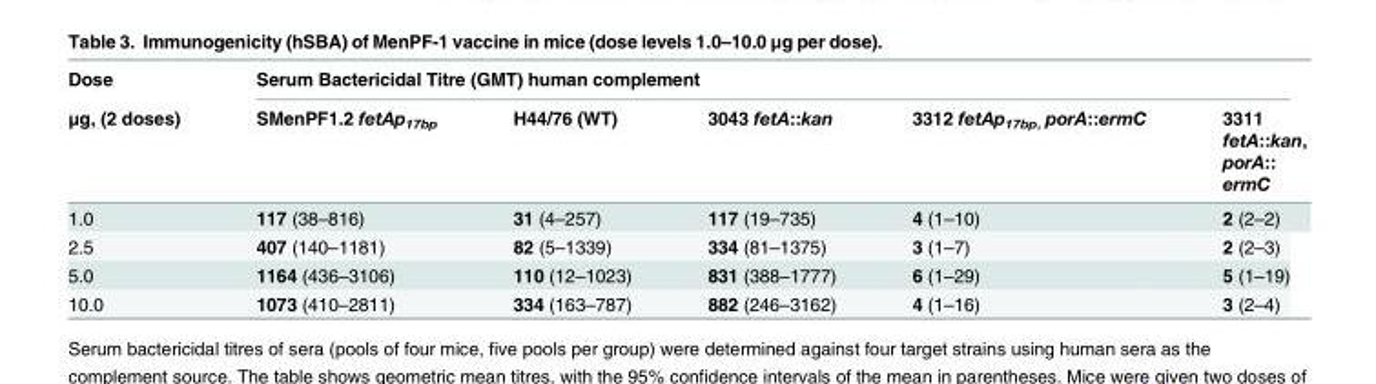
<table><thead><tr><td rowspan="2">Dose μg, (2 doses)</td><td colspan="5">Serum Bactericidal Titre (GMT) human complement</td></tr><tr><td>SMenPF1.2 fetAp<sub>17bp</sub></td><td>H44/76 (WT)</td><td>3043 fetA::kan</td><td>3312 fetAp<sub>17bp,</sub> porA::ermC</td><td>3311 fetA::kan, porA:: ermC</td></tr></thead><tbody><tr><td>1.0</td><td>117 (38–816)</td><td>31 (4–257)</td><td>117 (19–735)</td><td>4 (1–10)</td><td>2 (2–2)</td></tr><tr><td>2.5</td><td>407 (140–1181)</td><td>82 (5–1339)</td><td>334 (81–1375)</td><td>3 (1–7)</td><td>2 (2–3)</td></tr><tr><td>5.0</td><td>1164 (436–3106)</td><td>110 (12–1023)</td><td>831 (388–1777)</td><td>6 (1–29)</td><td>5 (1–19)</td></tr><tr><td>10.0</td><td>1073 (410–2811)</td><td>334 (163–787)</td><td>882 (246–3162)</td><td>4 (1–16)</td><td>3 (2–4)</td></tr></tbody></table>